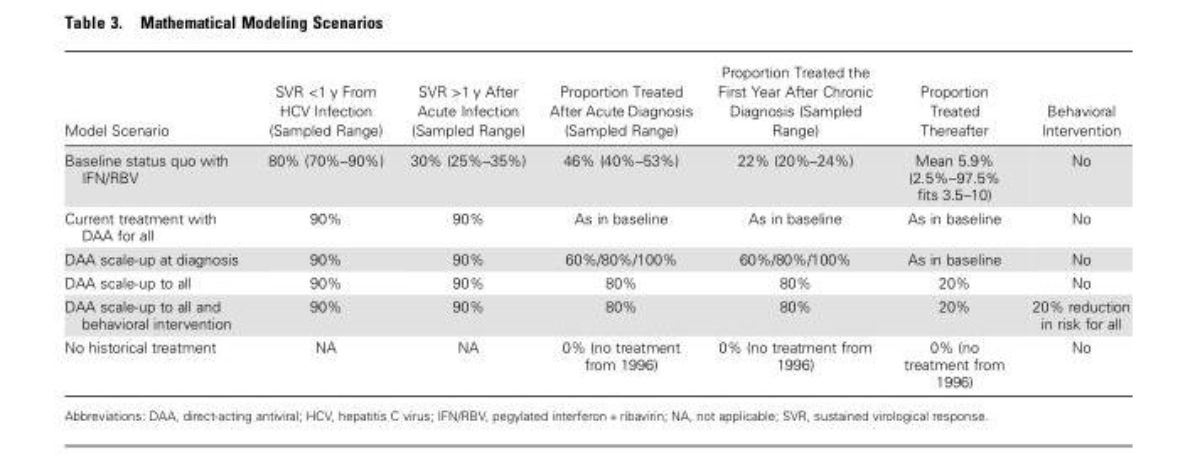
<table><thead><tr><td>Model Scenario</td><td>SVR &lt;1 y From HCV Infection (Sampled Range)</td><td>SVR &gt;1 y After Acute Infection (Sampled Range)</td><td>Proportion Treated After Acute Diagnosis (Sampled Range)</td><td>Proportion Treated the First Year After Chronic Diagnosis (Sampled Range)</td><td>Proportion Treated Thereafter</td><td>Behavioral Intervention</td></tr></thead><tbody><tr><td>Baseline status quo with IFN/RBV</td><td>80% (70%–90%)</td><td>30% (25%–35%)</td><td>46% (40%–53%)</td><td>22% (20%–24%)</td><td>Mean 5.9% (2.5%–97.5% fits 3.5–10)</td><td>No</td></tr><tr><td>Current treatment with DAA for all</td><td>90%</td><td>90%</td><td>As in baseline</td><td>As in baseline</td><td>As in baseline</td><td>No</td></tr><tr><td>DAA scale-up at diagnosis</td><td>90%</td><td>90%</td><td>60%/80%/100%</td><td>60%/80%/100%</td><td>As in baseline</td><td>No</td></tr><tr><td>DAA scale-up to all</td><td>90%</td><td>90%</td><td>80%</td><td>80%</td><td>20%</td><td>No</td></tr><tr><td>DAA scale-up to all and behavioral intervention</td><td>90%</td><td>90%</td><td>80%</td><td>80%</td><td>20%</td><td>20% reduction in risk for all</td></tr><tr><td>No historical treatment</td><td>NA</td><td>NA</td><td>0% (no treatment from 1996)</td><td>0% (no treatment from 1996)</td><td>0% (no treatment from 1996)</td><td>No</td></tr></tbody></table>